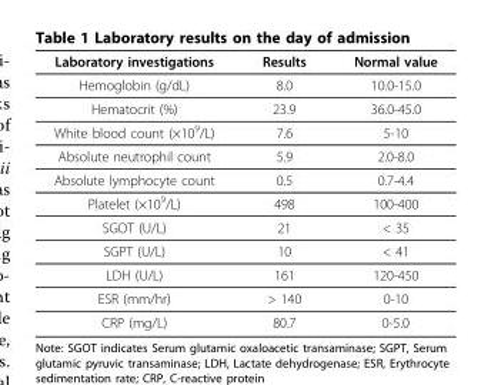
<table><thead><tr><td>Laboratory investigations</td><td>Results</td><td>Normal value</td></tr></thead><tbody><tr><td>Hemoglobin (g/dL)</td><td>8.0</td><td>10.0-15.0</td></tr><tr><td>Hematocrit (%)</td><td>23.9</td><td>36.0-45.0</td></tr><tr><td>White blood count (×10<sup>9</sup>/L)</td><td>7.6</td><td>5-10</td></tr><tr><td>Absolute neutrophil count</td><td>5.9</td><td>2.0-8.0</td></tr><tr><td>Absolute lymphocyte count</td><td>0.5</td><td>0.7-4.4</td></tr><tr><td>Platelet (×10<sup>9</sup>/L)</td><td>498</td><td>100-400</td></tr><tr><td>SGOT (U/L)</td><td>21</td><td>&lt; 35</td></tr><tr><td>SGPT (U/L)</td><td>10</td><td>&lt; 41</td></tr><tr><td>LDH (U/L)</td><td>161</td><td>120-450</td></tr><tr><td>ESR (mm/hr)</td><td>&gt; 140</td><td>0-10</td></tr><tr><td>CRP (mg/L)</td><td>80.7</td><td>0-5.0</td></tr></tbody></table>